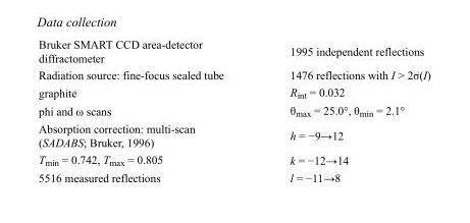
<table><tbody><tr><td>Bruker SMART CCD area-detector diffractometer</td><td>1995 independent reflections</td></tr><tr><td>Radiation source: fine-focus sealed tube</td><td>1476 reflections with I &gt; 2σ(I)</td></tr><tr><td>graphite</td><td>R<sub>int</sub> = 0.032</td></tr><tr><td>phi and ω scans</td><td>θ<sub>max</sub> = 25.0°, θ<sub>min</sub> = 2.1°</td></tr><tr><td>Absorption correction: multi-scan (SADABS; Bruker, 1996)</td><td>h = −9→12</td></tr><tr><td>T<sub>min</sub> = 0.742, T<sub>max</sub> = 0.805</td><td>k = −12→14</td></tr><tr><td>5516 measured reflections</td><td>l = −11→8</td></tr></tbody></table>